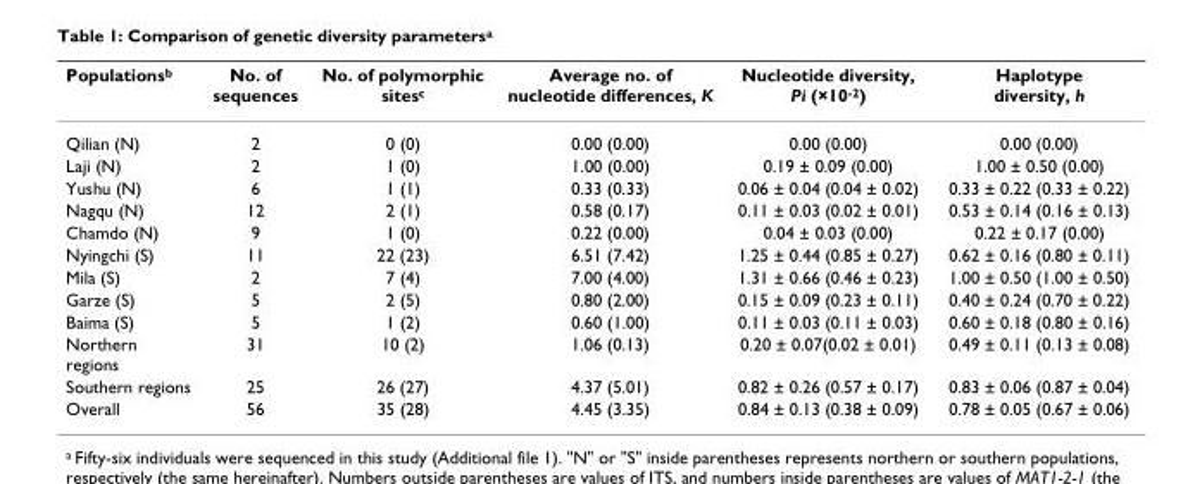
<table><thead><tr><td>Populations<sup>b</sup></td><td>No. of sequences</td><td>No. of polymorphic sites<sup>c</sup></td><td>Average no. of nucleotide differences, K</td><td>Nucleotide diversity, Pi (×10<sup>-2</sup>)</td><td>Haplotype diversity, h</td></tr></thead><tbody><tr><td>Qilian (N)</td><td>2</td><td>0 (0)</td><td>0.00 (0.00)</td><td>0.00 (0.00)</td><td>0.00 (0.00)</td></tr><tr><td>Laji (N)</td><td>2</td><td>1 (0)</td><td>1.00 (0.00)</td><td>0.19 ± 0.09 (0.00)</td><td>1.00 ± 0.50 (0.00)</td></tr><tr><td>Yushu (N)</td><td>6</td><td>1 (1)</td><td>0.33 (0.33)</td><td>0.06 ± 0.04 (0.04 ± 0.02)</td><td>0.33 ± 0.22 (0.33 ± 0.22)</td></tr><tr><td>Nagqu (N)</td><td>12</td><td>2 (1)</td><td>0.58 (0.17)</td><td>0.11 ± 0.03 (0.02 ± 0.01)</td><td>0.53 ± 0.14 (0.16 ± 0.13)</td></tr><tr><td>Chamdo (N)</td><td>9</td><td>1 (0)</td><td>0.22 (0.00)</td><td>0.04 ± 0.03 (0.00)</td><td>0.22 ± 0.17 (0.00)</td></tr><tr><td>Nyingchi (S)</td><td>11</td><td>22 (23)</td><td>6.51 (7.42)</td><td>1.25 ± 0.44 (0.85 ± 0.27)</td><td>0.62 ± 0.16 (0.80 ± 0.11)</td></tr><tr><td>Mila (S)</td><td>2</td><td>7 (4)</td><td>7.00 (4.00)</td><td>1.31 ± 0.66 (0.46 ± 0.23)</td><td>1.00 ± 0.50 (1.00 ± 0.50)</td></tr><tr><td>Garze (S)</td><td>5</td><td>2 (5)</td><td>0.80 (2.00)</td><td>0.15 ± 0.09 (0.23 ± 0.11)</td><td>0.40 ± 0.24 (0.70 ± 0.22)</td></tr><tr><td>Baima (S)</td><td>5</td><td>1 (2)</td><td>0.60 (1.00)</td><td>0.11 ± 0.03 (0.11 ± 0.03)</td><td>0.60 ± 0.18 (0.80 ± 0.16)</td></tr><tr><td>Northern regions</td><td>31</td><td>10 (2)</td><td>1.06 (0.13)</td><td>0.20 ± 0.07(0.02 ± 0.01)</td><td>0.49 ± 0.11 (0.13 ± 0.08)</td></tr><tr><td>Southern regions</td><td>25</td><td>26 (27)</td><td>4.37 (5.01)</td><td>0.82 ± 0.26 (0.57 ± 0.17)</td><td>0.83 ± 0.06 (0.87 ± 0.04)</td></tr><tr><td>Overall</td><td>56</td><td>35 (28)</td><td>4.45 (3.35)</td><td>0.84 ± 0.13 (0.38 ± 0.09)</td><td>0.78 ± 0.05 (0.67 ± 0.06)</td></tr></tbody></table>